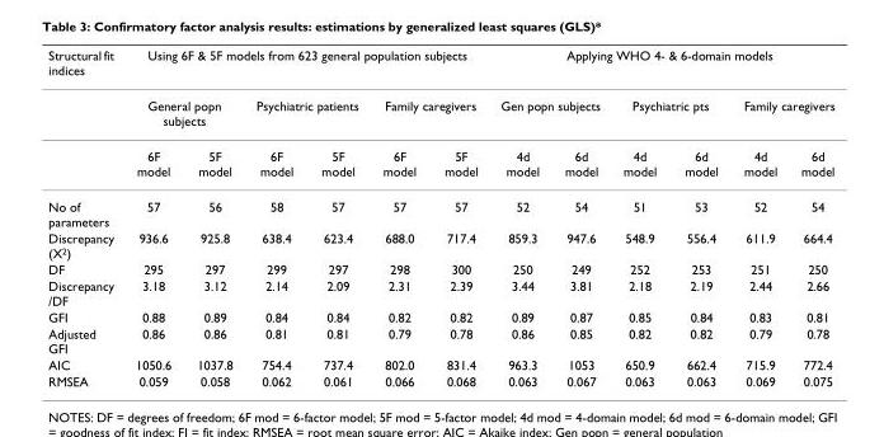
<table><thead><tr><td rowspan="3">Structural fit indices</td><td colspan="6">Using 6F &amp; 5F models from 623 general population subjects</td><td colspan="6">Applying WHO 4- &amp; 6-domain models</td></tr><tr><td colspan="2">General popn subjects</td><td colspan="2">Psychiatric patients</td><td colspan="2">Family caregivers</td><td colspan="2">Gen popn subjects</td><td colspan="2">Psychiatric pts</td><td colspan="2">Family caregivers</td></tr><tr><td>6F model</td><td>5F model</td><td>6F model</td><td>5F model</td><td>6F model</td><td>5F model</td><td>4d model</td><td>6d model</td><td>4d model</td><td>6d model</td><td>4d model</td><td>6d model</td></tr></thead><tbody><tr><td>No of parameters</td><td>57</td><td>56</td><td>58</td><td>57</td><td>57</td><td>57</td><td>52</td><td>54</td><td>51</td><td>53</td><td>52</td><td>54</td></tr><tr><td>Discrepancy (X<sup>2</sup>)</td><td>936.6</td><td>925.8</td><td>638.4</td><td>623.4</td><td>688.0</td><td>717.4</td><td>859.3</td><td>947.6</td><td>548.9</td><td>556.4</td><td>611.9</td><td>664.4</td></tr><tr><td>DF</td><td>295</td><td>297</td><td>299</td><td>297</td><td>298</td><td>300</td><td>250</td><td>249</td><td>252</td><td>253</td><td>251</td><td>250</td></tr><tr><td>Discrepancy /DF</td><td>3.18</td><td>3.12</td><td>2.14</td><td>2.09</td><td>2.31</td><td>2.39</td><td>3.44</td><td>3.81</td><td>2.18</td><td>2.19</td><td>2.44</td><td>2.66</td></tr><tr><td>GFI</td><td>0.88</td><td>0.89</td><td>0.84</td><td>0.84</td><td>0.82</td><td>0.82</td><td>0.89</td><td>0.87</td><td>0.85</td><td>0.84</td><td>0.83</td><td>0.81</td></tr><tr><td>Adjusted GFI</td><td>0.86</td><td>0.86</td><td>0.81</td><td>0.81</td><td>0.79</td><td>0.78</td><td>0.86</td><td>0.85</td><td>0.82</td><td>0.82</td><td>0.79</td><td>0.78</td></tr><tr><td>AIC</td><td>1050.6</td><td>1037.8</td><td>754.4</td><td>737.4</td><td>802.0</td><td>831.4</td><td>963.3</td><td>1053</td><td>650.9</td><td>662.4</td><td>715.9</td><td>772.4</td></tr><tr><td>RMSEA</td><td>0.059</td><td>0.058</td><td>0.062</td><td>0.061</td><td>0.066</td><td>0.068</td><td>0.063</td><td>0.067</td><td>0.063</td><td>0.063</td><td>0.069</td><td>0.075</td></tr></tbody></table>